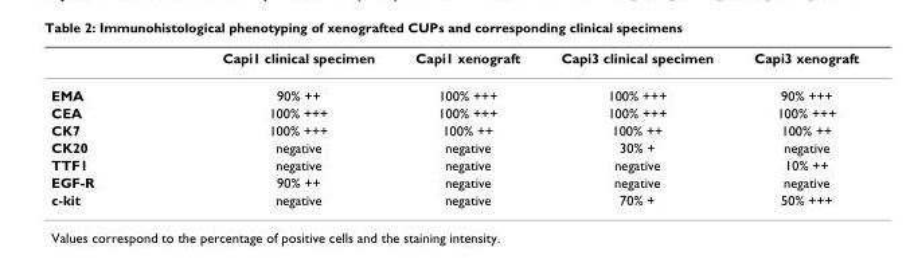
<table><thead><tr><td></td><td>Capi1 clinical specimen</td><td>Capi1 xenograft</td><td>Capi3 clinical specimen</td><td>Capi3 xenograft</td></tr></thead><tbody><tr><td>EMA</td><td>90% ++</td><td>100% +++</td><td>100% +++</td><td>90% +++</td></tr><tr><td>CEA</td><td>100% +++</td><td>100% +++</td><td>100% +++</td><td>100% +++</td></tr><tr><td>CK7</td><td>100% +++</td><td>100% ++</td><td>100% ++</td><td>100% ++</td></tr><tr><td>CK20</td><td>negative</td><td>negative</td><td>30% +</td><td>negative</td></tr><tr><td>TTF1</td><td>negative</td><td>negative</td><td>negative</td><td>10% ++</td></tr><tr><td>EGF-R</td><td>90% ++</td><td>negative</td><td>negative</td><td>negative</td></tr><tr><td>c-kit</td><td>negative</td><td>negative</td><td>70% +</td><td>50% +++</td></tr></tbody></table>